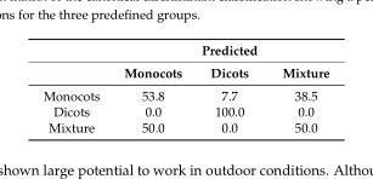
<table><thead><tr><td rowspan="2"></td><td rowspan="2">Monocots</td><td rowspan="2">Predicted Dicots</td><td rowspan="2">Mixture</td></tr><tr></tr></thead><tbody><tr><td>Monocots</td><td>53.8</td><td>7.7</td><td>38.5</td></tr><tr><td>Dicots</td><td>0.0</td><td>100.0</td><td>0.0</td></tr><tr><td>Mixture</td><td>50.0</td><td>0.0</td><td>50.0</td></tr></tbody></table>